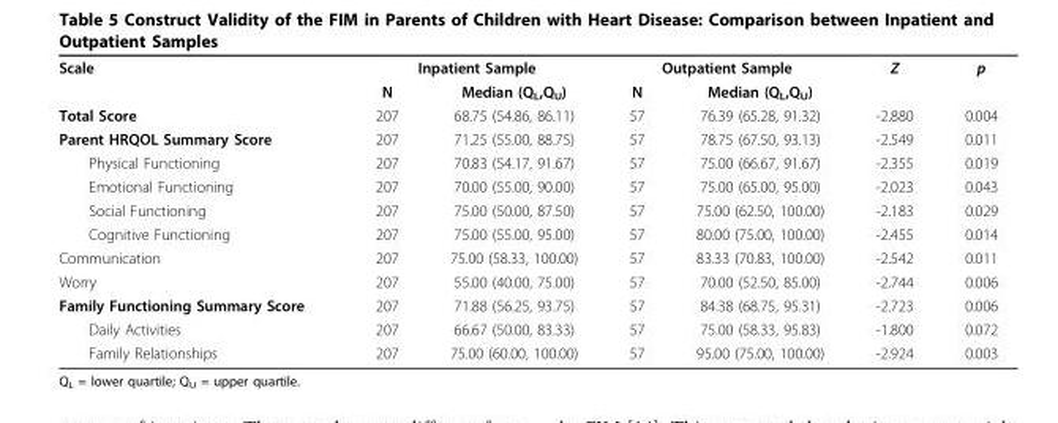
<table><tbody><tr><td rowspan="2">Scale</td><td colspan="2">Inpatient Sample</td><td colspan="2">Outpatient Sample</td><td>Z</td><td>p</td></tr><tr><td>N</td><td>Median (Q<sub>L</sub>,Q<sub>U</sub>)</td><td>N</td><td>Median (Q<sub>L</sub>,Q<sub>U</sub>)</td><td></td><td></td></tr><tr><td>Total Score</td><td>207</td><td>68.75 (54.86, 86.11)</td><td>57</td><td>76.39 (65.28, 91.32)</td><td>-2.880</td><td>0.004</td></tr><tr><td>Parent HRQOL Summary Score</td><td>207</td><td>71.25 (55.00, 88.75)</td><td>57</td><td>78.75 (67.50, 93.13)</td><td>-2.549</td><td>0.011</td></tr><tr><td>Physical Functioning</td><td>207</td><td>70.83 (54.17, 91.67)</td><td>57</td><td>75.00 (66.67, 91.67)</td><td>-2.355</td><td>0.019</td></tr><tr><td>Emotional Functioning</td><td>207</td><td>70.00 (55.00, 90.00)</td><td>57</td><td>75.00 (65.00, 95.00)</td><td>-2.023</td><td>0.043</td></tr><tr><td>Social Functioning</td><td>207</td><td>75.00 (50.00, 87.50)</td><td>57</td><td>75.00 (62.50, 100.00)</td><td>-2.183</td><td>0.029</td></tr><tr><td>Cognitive Functioning</td><td>207</td><td>75.00 (55.00, 95.00)</td><td>57</td><td>80.00 (75.00, 100.00)</td><td>-2.455</td><td>0.014</td></tr><tr><td>Communication</td><td>207</td><td>75.00 (58.33, 100.00)</td><td>57</td><td>83.33 (70.83, 100.00)</td><td>-2.542</td><td>0.011</td></tr><tr><td>Worry</td><td>207</td><td>55.00 (40.00, 75.00)</td><td>57</td><td>70.00 (52.50, 85.00)</td><td>-2.744</td><td>0.006</td></tr><tr><td>Family Functioning Summary Score</td><td>207</td><td>71.88 (56.25, 93.75)</td><td>57</td><td>84.38 (68.75, 95.31)</td><td>-2.723</td><td>0.006</td></tr><tr><td>Daily Activities</td><td>207</td><td>66.67 (50.00, 83.33)</td><td>57</td><td>75.00 (58.33, 95.83)</td><td>-1.800</td><td>0.072</td></tr><tr><td>Family Relationships</td><td>207</td><td>75.00 (60.00, 100.00)</td><td>57</td><td>95.00 (75.00, 100.00)</td><td>-2.924</td><td>0.003</td></tr></tbody></table>